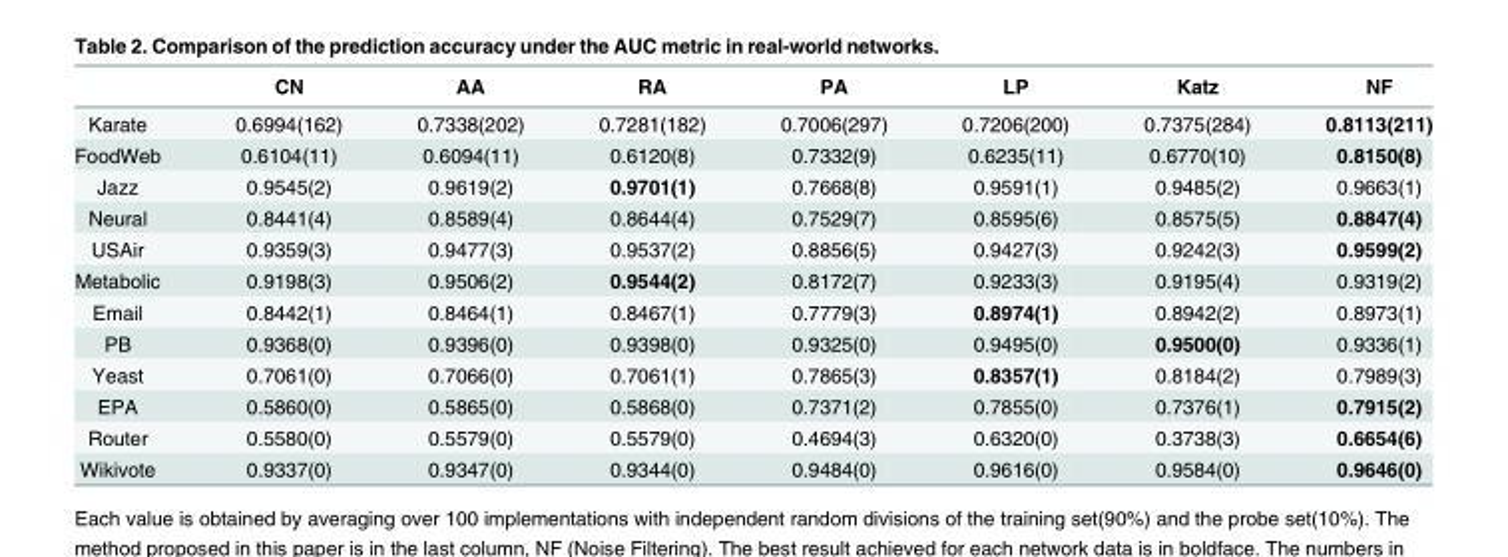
<table><thead><tr><td></td><td>CN</td><td>AA</td><td>RA</td><td>PA</td><td>LP</td><td>Katz</td><td>NF</td></tr></thead><tbody><tr><td>Karate</td><td>0.6994(162)</td><td>0.7338(202)</td><td>0.7281(182)</td><td>0.7006(297)</td><td>0.7206(200)</td><td>0.7375(284)</td><td>0.8113(211)</td></tr><tr><td>FoodWeb</td><td>0.6104(11)</td><td>0.6094(11)</td><td>0.6120(8)</td><td>0.7332(9)</td><td>0.6235(11)</td><td>0.6770(10)</td><td>0.8150(8)</td></tr><tr><td>Jazz</td><td>0.9545(2)</td><td>0.9619(2)</td><td>0.9701(1)</td><td>0.7668(8)</td><td>0.9591(1)</td><td>0.9485(2)</td><td>0.9663(1)</td></tr><tr><td>Neural</td><td>0.8441(4)</td><td>0.8589(4)</td><td>0.8644(4)</td><td>0.7529(7)</td><td>0.8595(6)</td><td>0.8575(5)</td><td>0.8847(4)</td></tr><tr><td>USAir</td><td>0.9359(3)</td><td>0.9477(3)</td><td>0.9537(2)</td><td>0.8856(5)</td><td>0.9427(3)</td><td>0.9242(3)</td><td>0.9599(2)</td></tr><tr><td>Metabolic</td><td>0.9198(3)</td><td>0.9506(2)</td><td>0.9544(2)</td><td>0.8172(7)</td><td>0.9233(3)</td><td>0.9195(4)</td><td>0.9319(2)</td></tr><tr><td>Email</td><td>0.8442(1)</td><td>0.8464(1)</td><td>0.8467(1)</td><td>0.7779(3)</td><td>0.8974(1)</td><td>0.8942(2)</td><td>0.8973(1)</td></tr><tr><td>PB</td><td>0.9368(0)</td><td>0.9396(0)</td><td>0.9398(0)</td><td>0.9325(0)</td><td>0.9495(0)</td><td>0.9500(0)</td><td>0.9336(1)</td></tr><tr><td>Yeast</td><td>0.7061(0)</td><td>0.7066(0)</td><td>0.7061(1)</td><td>0.7865(3)</td><td>0.8357(1)</td><td>0.8184(2)</td><td>0.7989(3)</td></tr><tr><td>EPA</td><td>0.5860(0)</td><td>0.5865(0)</td><td>0.5868(0)</td><td>0.7371(2)</td><td>0.7855(0)</td><td>0.7376(1)</td><td>0.7915(2)</td></tr><tr><td>Router</td><td>0.5580(0)</td><td>0.5579(0)</td><td>0.5579(0)</td><td>0.4694(3)</td><td>0.6320(0)</td><td>0.3738(3)</td><td>0.6654(6)</td></tr><tr><td>Wikivote</td><td>0.9337(0)</td><td>0.9347(0)</td><td>0.9344(0)</td><td>0.9484(0)</td><td>0.9616(0)</td><td>0.9584(0)</td><td>0.9646(0)</td></tr></tbody></table>